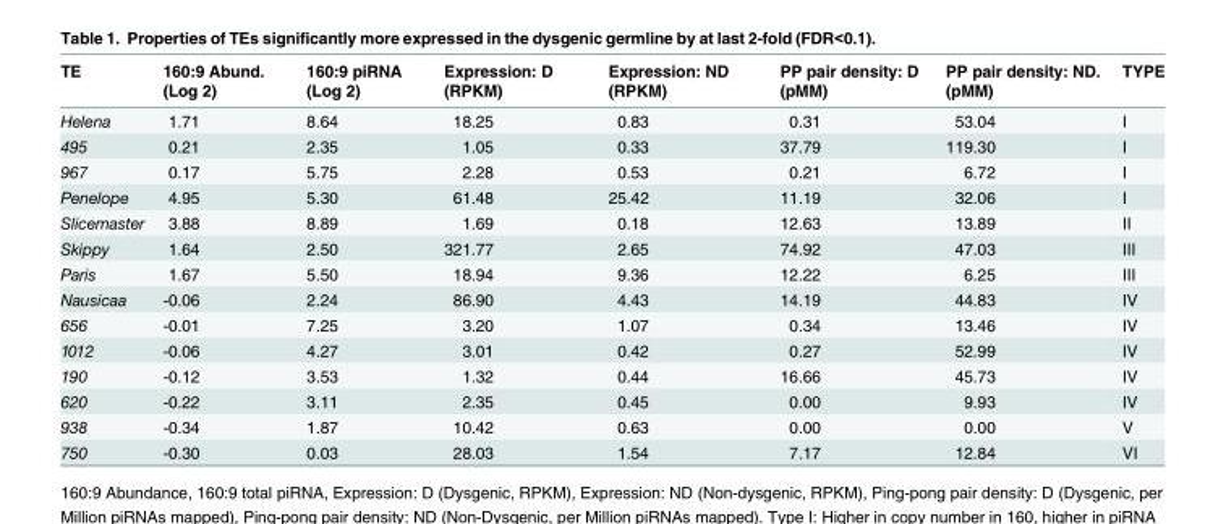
<table><thead><tr><td>TE</td><td>160:9 Abund. (Log 2)</td><td>160:9 piRNA (Log 2)</td><td>Expression: D (RPKM)</td><td>Expression: ND (RPKM)</td><td>PP pair density: D (pMM)</td><td>PP pair density: ND. (pMM)</td><td>TYPE</td></tr></thead><tbody><tr><td>Helena</td><td>1.71</td><td>8.64</td><td>18.25</td><td>0.83</td><td>0.31</td><td>53.04</td><td>I</td></tr><tr><td>495</td><td>0.21</td><td>2.35</td><td>1.05</td><td>0.33</td><td>37.79</td><td>119.30</td><td>I</td></tr><tr><td>967</td><td>0.17</td><td>5.75</td><td>2.28</td><td>0.53</td><td>0.21</td><td>6.72</td><td>I</td></tr><tr><td>Penelope</td><td>4.95</td><td>5.30</td><td>61.48</td><td>25.42</td><td>11.19</td><td>32.06</td><td>I</td></tr><tr><td>Slicemaster</td><td>3.88</td><td>8.89</td><td>1.69</td><td>0.18</td><td>12.63</td><td>13.89</td><td>II</td></tr><tr><td>Skippy</td><td>1.64</td><td>2.50</td><td>321.77</td><td>2.65</td><td>74.92</td><td>47.03</td><td>III</td></tr><tr><td>Paris</td><td>1.67</td><td>5.50</td><td>18.94</td><td>9.36</td><td>12.22</td><td>6.25</td><td>III</td></tr><tr><td>Nausicaa</td><td>-0.06</td><td>2.24</td><td>86.90</td><td>4.43</td><td>14.19</td><td>44.83</td><td>IV</td></tr><tr><td>656</td><td>-0.01</td><td>7.25</td><td>3.20</td><td>1.07</td><td>0.34</td><td>13.46</td><td>IV</td></tr><tr><td>1012</td><td>-0.06</td><td>4.27</td><td>3.01</td><td>0.42</td><td>0.27</td><td>52.99</td><td>IV</td></tr><tr><td>190</td><td>-0.12</td><td>3.53</td><td>1.32</td><td>0.44</td><td>16.66</td><td>45.73</td><td>IV</td></tr><tr><td>620</td><td>-0.22</td><td>3.11</td><td>2.35</td><td>0.45</td><td>0.00</td><td>9.93</td><td>IV</td></tr><tr><td>938</td><td>-0.34</td><td>1.87</td><td>10.42</td><td>0.63</td><td>0.00</td><td>0.00</td><td>V</td></tr><tr><td>750</td><td>-0.30</td><td>0.03</td><td>28.03</td><td>1.54</td><td>7.17</td><td>12.84</td><td>VI</td></tr></tbody></table>